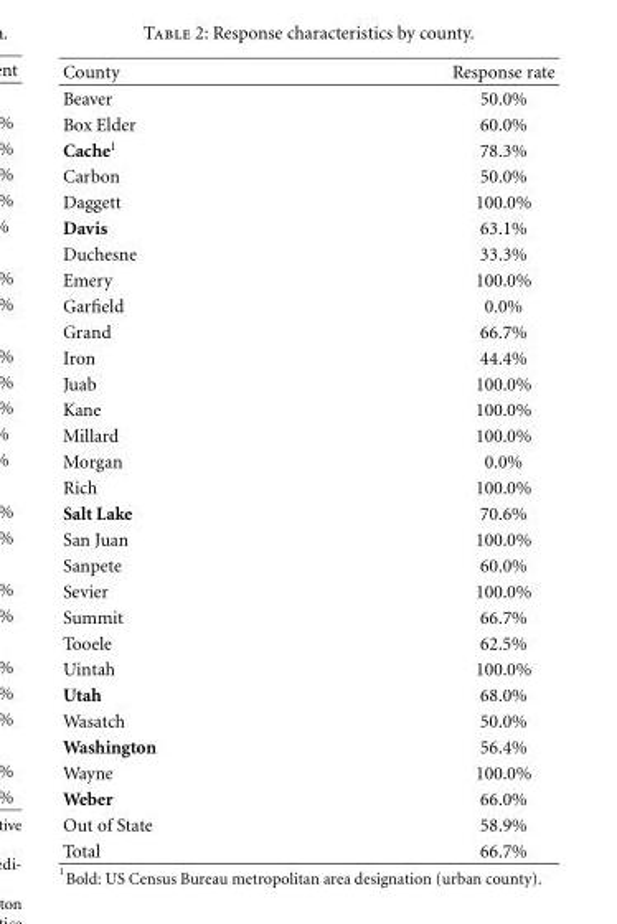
<table><thead><tr><td>County</td><td>Response rate</td></tr></thead><tbody><tr><td>Beaver</td><td>50.0%</td></tr><tr><td>Box Elder</td><td>60.0%</td></tr><tr><td>Cache<sup>1</sup></td><td>78.3%</td></tr><tr><td>Carbon</td><td>50.0%</td></tr><tr><td>Daggett</td><td>100.0%</td></tr><tr><td>Davis</td><td>63.1%</td></tr><tr><td>Duchesne</td><td>33.3%</td></tr><tr><td>Emery</td><td>100.0%</td></tr><tr><td>Garfield</td><td>0.0%</td></tr><tr><td>Grand</td><td>66.7%</td></tr><tr><td>Iron</td><td>44.4%</td></tr><tr><td>Juab</td><td>100.0%</td></tr><tr><td>Kane</td><td>100.0%</td></tr><tr><td>Millard</td><td>100.0%</td></tr><tr><td>Morgan</td><td>0.0%</td></tr><tr><td>Rich</td><td>100.0%</td></tr><tr><td>Salt Lake</td><td>70.6%</td></tr><tr><td>San Juan</td><td>100.0%</td></tr><tr><td>Sanpete</td><td>60.0%</td></tr><tr><td>Sevier</td><td>100.0%</td></tr><tr><td>Summit</td><td>66.7%</td></tr><tr><td>Tooele</td><td>62.5%</td></tr><tr><td>Uintah</td><td>100.0%</td></tr><tr><td>Utah</td><td>68.0%</td></tr><tr><td>Wasatch</td><td>50.0%</td></tr><tr><td>Washington</td><td>56.4%</td></tr><tr><td>Wayne</td><td>100.0%</td></tr><tr><td>Weber</td><td>66.0%</td></tr><tr><td>Out of State</td><td>58.9%</td></tr><tr><td>Total</td><td>66.7%</td></tr></tbody></table>